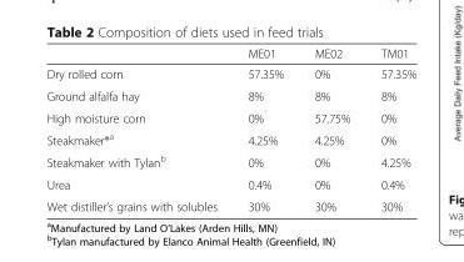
<table><thead><tr><td></td><td>ME01</td><td>ME02</td><td>TM01</td></tr></thead><tbody><tr><td>Dry rolled corn</td><td>57.35%</td><td>0%</td><td>57.35%</td></tr><tr><td>Ground alfalfa hay</td><td>8%</td><td>8%</td><td>8%</td></tr><tr><td>High moisture corn</td><td>0%</td><td>57.75%</td><td>0%</td></tr><tr><td>Steakmaker®<sup>a</sup></td><td>4.25%</td><td>4.25%</td><td>0%</td></tr><tr><td>Steakmaker with Tylan<sup>b</sup></td><td>0%</td><td>0%</td><td>4.25%</td></tr><tr><td>Urea</td><td>0.4%</td><td>0%</td><td>0.4%</td></tr><tr><td>Wet distiller’s grains with solubles</td><td>30%</td><td>30%</td><td>30%</td></tr></tbody></table>